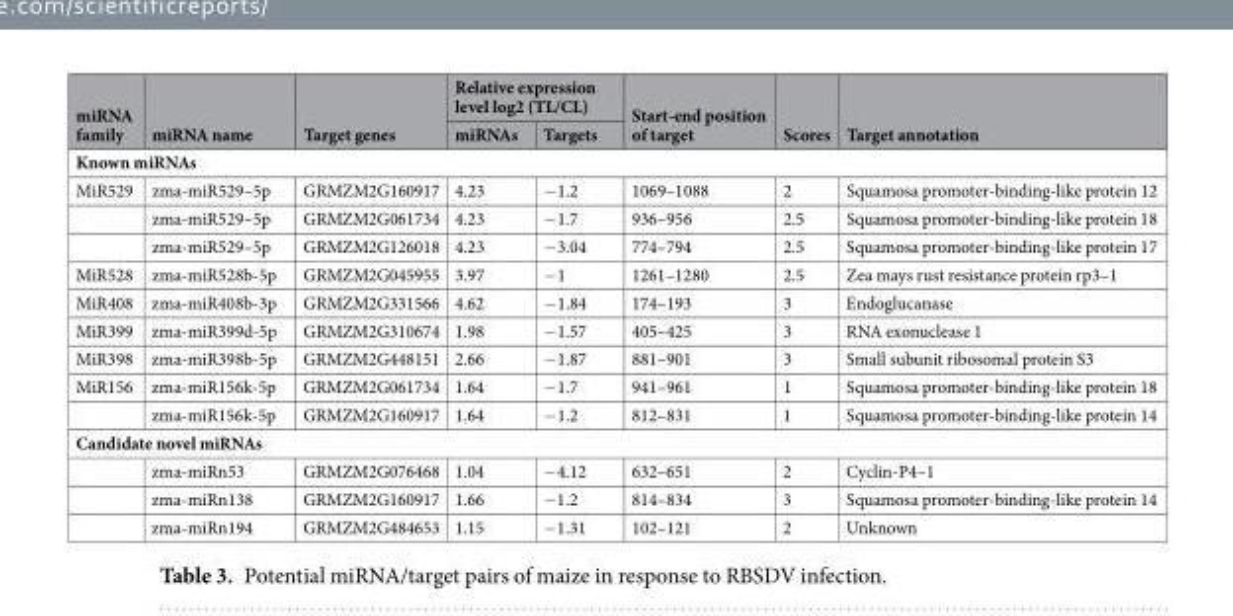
<table><thead><tr><td rowspan="2">miRNA family</td><td rowspan="2">miRNA name</td><td rowspan="2">Target genes</td><td colspan="2">Relative expression level log2 (TL/CL)</td><td rowspan="2">Start-end position of target</td><td rowspan="2">Scores</td><td rowspan="2">Target annotation</td></tr><tr><td>miRNAs</td><td>Targets</td></tr></thead><tbody><tr><td colspan="8">Known miRNAs</td></tr><tr><td rowspan="3">MiR529</td><td>zma-miR529–5p</td><td>GRMZM2G160917</td><td>4.23</td><td>−1.2</td><td>1069–1088</td><td>2</td><td>Squamosa promoter-binding-like protein 12</td></tr><tr><td>zma-miR529–5p</td><td>GRMZM2G061734</td><td>4.23</td><td>−1.7</td><td>936–956</td><td>2.5</td><td>Squamosa promoter-binding-like protein 18</td></tr><tr><td>zma-miR529–5p</td><td>GRMZM2G126018</td><td>4.23</td><td>−3.04</td><td>774–794</td><td>2.5</td><td>Squamosa promoter-binding-like protein 17</td></tr><tr><td>MiR528</td><td>zma-miR528b-5p</td><td>GRMZM2G045955</td><td>3.97</td><td>−1</td><td>1261–1280</td><td>2.5</td><td>Zea mays rust resistance protein rp3–1</td></tr><tr><td>MiR408</td><td>zma-miR408b-3p</td><td>GRMZM2G331566</td><td>4.62</td><td>−1.84</td><td>174–193</td><td>3</td><td>Endoglucanase</td></tr><tr><td>MiR399</td><td>zma-miR399d-5p</td><td>GRMZM2G310674</td><td>1.98</td><td>−1.57</td><td>405–425</td><td>3</td><td>RNA exonuclease 1</td></tr><tr><td>MiR398</td><td>zma-miR398b-5p</td><td>GRMZM2G448151</td><td>2.66</td><td>−1.87</td><td>881–901</td><td>3</td><td>Small subunit ribosomal protein S3</td></tr><tr><td rowspan="2">MiR156</td><td>zma-miR156k-5p</td><td>GRMZM2G061734</td><td>1.64</td><td>−1.7</td><td>941–961</td><td>1</td><td>Squamosa promoter-binding-like protein 18</td></tr><tr><td>zma-miR156k-5p</td><td>GRMZM2G160917</td><td>1.64</td><td>−1.2</td><td>812–831</td><td>1</td><td>Squamosa promoter-binding-like protein 14</td></tr><tr><td colspan="8">Candidate novel miRNAs</td></tr><tr><td></td><td>zma-miRn53</td><td>GRMZM2G076468</td><td>1.04</td><td>−4.12</td><td>632–651</td><td>2</td><td>Cyclin-P4–1</td></tr><tr><td></td><td>zma-miRn138</td><td>GRMZM2G160917</td><td>1.66</td><td>−1.2</td><td>814–834</td><td>3</td><td>Squamosa promoter-binding-like protein 14</td></tr><tr><td></td><td>zma-miRn194</td><td>GRMZM2G484653</td><td>1.15</td><td>−1.31</td><td>102–121</td><td>2</td><td>Unknown</td></tr></tbody></table>